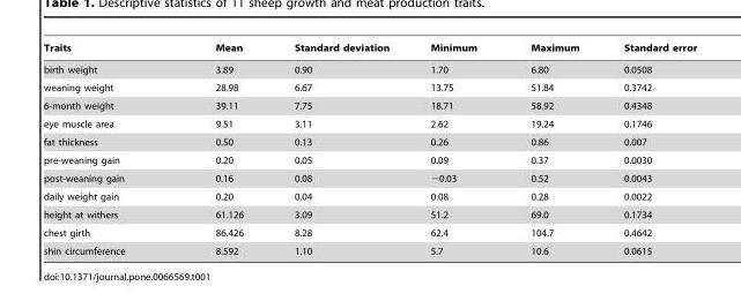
<table><thead><tr><td>Traits</td><td>Mean</td><td>Standard deviation</td><td>Minimum</td><td>Maximum</td><td>Standard error</td></tr></thead><tbody><tr><td>birth weight</td><td>3.89</td><td>0.90</td><td>1.70</td><td>6.80</td><td>0.0508</td></tr><tr><td>weaning weight</td><td>28.98</td><td>6.67</td><td>13.75</td><td>51.84</td><td>0.3742</td></tr><tr><td>6-month weight</td><td>39.11</td><td>7.75</td><td>18.71</td><td>58.92</td><td>0.4348</td></tr><tr><td>eye muscle area</td><td>9.51</td><td>3.11</td><td>2.62</td><td>19.24</td><td>0.1746</td></tr><tr><td>fat thickness</td><td>0.50</td><td>0.13</td><td>0.26</td><td>0.86</td><td>0.007</td></tr><tr><td>pre-weaning gain</td><td>0.20</td><td>0.05</td><td>0.09</td><td>0.37</td><td>0.0030</td></tr><tr><td>post-weaning gain</td><td>0.16</td><td>0.08</td><td>−0.03</td><td>0.52</td><td>0.0043</td></tr><tr><td>daily weight gain</td><td>0.20</td><td>0.04</td><td>0.08</td><td>0.28</td><td>0.0022</td></tr><tr><td>height at withers</td><td>61.126</td><td>3.09</td><td>51.2</td><td>69.0</td><td>0.1734</td></tr><tr><td>chest girth</td><td>86.426</td><td>8.28</td><td>62.4</td><td>104.7</td><td>0.4642</td></tr><tr><td>shin circumference</td><td>8.592</td><td>1.10</td><td>5.7</td><td>10.6</td><td>0.0615</td></tr></tbody></table>